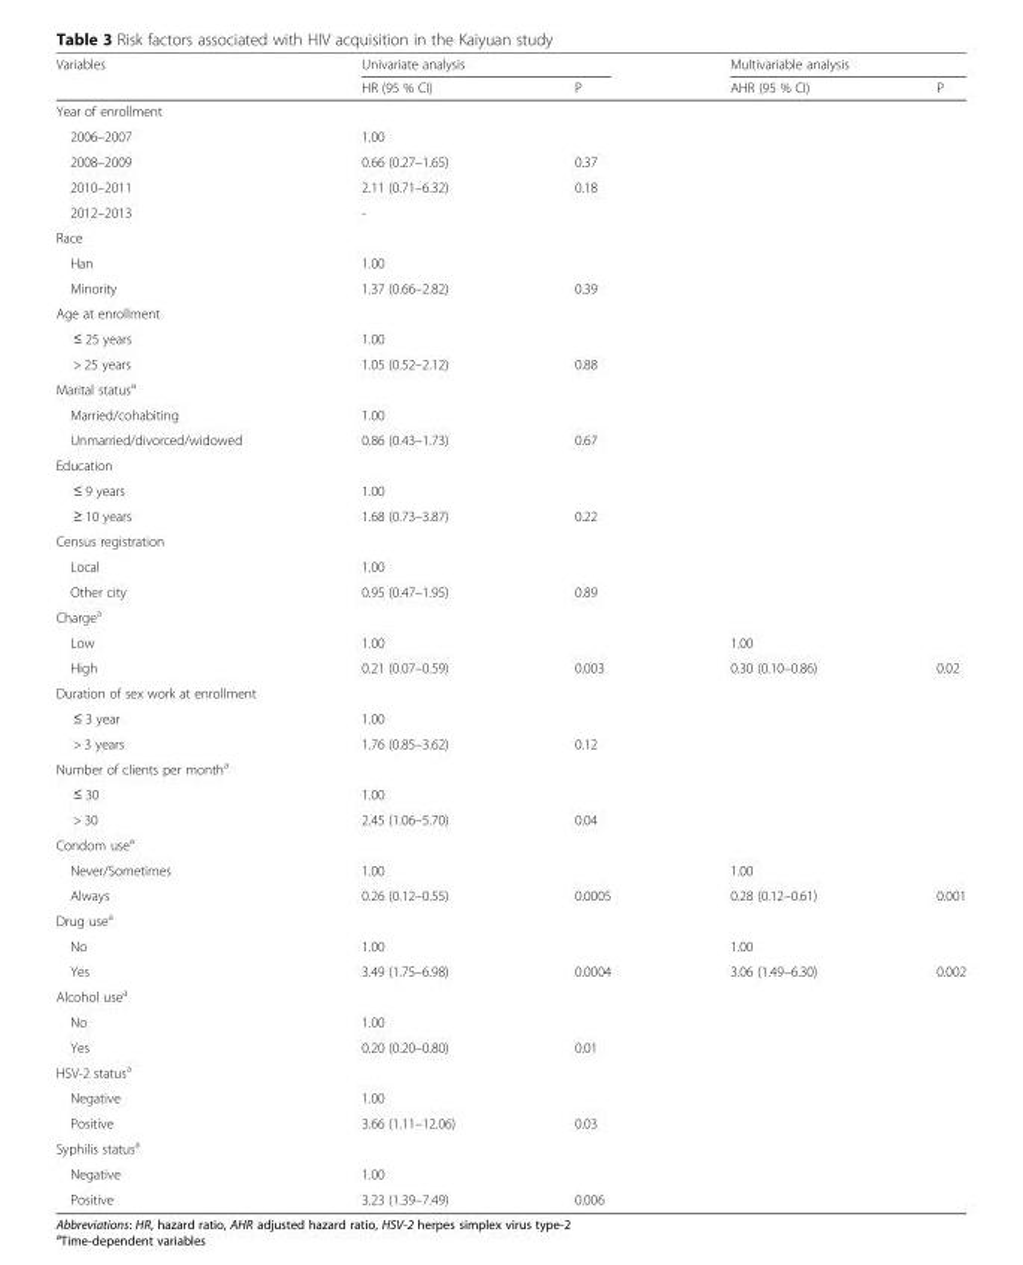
<table><thead><tr><td rowspan="2">Variables</td><td colspan="2">Univariate analysis</td><td colspan="2">Multivariable analysis</td></tr><tr><td>HR (95 % CI)</td><td>P</td><td>AHR (95 % CI)</td><td>P</td></tr></thead><tbody><tr><td colspan="5">Year of enrollment</td></tr><tr><td>2006–2007</td><td>1.00</td><td></td><td></td><td></td></tr><tr><td>2008–2009</td><td>0.66 (0.27–1.65)</td><td>0.37</td><td></td><td></td></tr><tr><td>2010–2011</td><td>2.11 (0.71–6.32)</td><td>0.18</td><td></td><td></td></tr><tr><td>2012–2013</td><td>-</td><td></td><td></td><td></td></tr><tr><td colspan="5">Race</td></tr><tr><td>Han</td><td>1.00</td><td></td><td></td><td></td></tr><tr><td>Minority</td><td>1.37 (0.66–2.82)</td><td>0.39</td><td></td><td></td></tr><tr><td colspan="5">Age at enrollment</td></tr><tr><td>≤ 25 years</td><td>1.00</td><td></td><td></td><td></td></tr><tr><td>&gt; 25 years</td><td>1.05 (0.52–2.12)</td><td>0.88</td><td></td><td></td></tr><tr><td colspan="5">Marital status<sup>a</sup></td></tr><tr><td>Married/cohabiting</td><td>1.00</td><td></td><td></td><td></td></tr><tr><td>Unmarried/divorced/widowed</td><td>0.86 (0.43–1.73)</td><td>0.67</td><td></td><td></td></tr><tr><td colspan="5">Education</td></tr><tr><td>≤ 9 years</td><td>1.00</td><td></td><td></td><td></td></tr><tr><td>≥ 10 years</td><td>1.68 (0.73–3.87)</td><td>0.22</td><td></td><td></td></tr><tr><td colspan="5">Census registration</td></tr><tr><td>Local</td><td>1.00</td><td></td><td></td><td></td></tr><tr><td>Other city</td><td>0.95 (0.47–1.95)</td><td>0.89</td><td></td><td></td></tr><tr><td colspan="5">Charge<sup>a</sup></td></tr><tr><td>Low</td><td>1.00</td><td></td><td>1.00</td><td></td></tr><tr><td>High</td><td>0.21 (0.07–0.59)</td><td>0.003</td><td>0.30 (0.10–0.86)</td><td>0.02</td></tr><tr><td colspan="5">Duration of sex work at enrollment</td></tr><tr><td>≤ 3 year</td><td>1.00</td><td></td><td></td><td></td></tr><tr><td>&gt; 3 years</td><td>1.76 (0.85–3.62)</td><td>0.12</td><td></td><td></td></tr><tr><td colspan="5">Number of clients per month<sup>a</sup></td></tr><tr><td>≤ 30</td><td>1.00</td><td></td><td></td><td></td></tr><tr><td>&gt; 30</td><td>2.45 (1.06–5.70)</td><td>0.04</td><td></td><td></td></tr><tr><td colspan="5">Condom use<sup>a</sup></td></tr><tr><td>Never/Sometimes</td><td>1.00</td><td></td><td>1.00</td><td></td></tr><tr><td>Always</td><td>0.26 (0.12–0.55)</td><td>0.0005</td><td>0.28 (0.12–0.61)</td><td>0.001</td></tr><tr><td colspan="5">Drug use<sup>a</sup></td></tr><tr><td>No</td><td>1.00</td><td></td><td>1.00</td><td></td></tr><tr><td>Yes</td><td>3.49 (1.75–6.98)</td><td>0.0004</td><td>3.06 (1.49–6.30)</td><td>0.002</td></tr><tr><td colspan="5">Alcohol use<sup>a</sup></td></tr><tr><td>No</td><td>1.00</td><td></td><td></td><td></td></tr><tr><td>Yes</td><td>0.20 (0.20–0.80)</td><td>0.01</td><td></td><td></td></tr><tr><td colspan="5">HSV-2 status<sup>a</sup></td></tr><tr><td>Negative</td><td>1.00</td><td></td><td></td><td></td></tr><tr><td>Positive</td><td>3.66 (1.11–12.06)</td><td>0.03</td><td></td><td></td></tr><tr><td colspan="5">Syphilis status<sup>a</sup></td></tr><tr><td>Negative</td><td>1.00</td><td></td><td></td><td></td></tr><tr><td>Positive</td><td>3.23 (1.39–7.49)</td><td>0.006</td><td></td><td></td></tr></tbody></table>